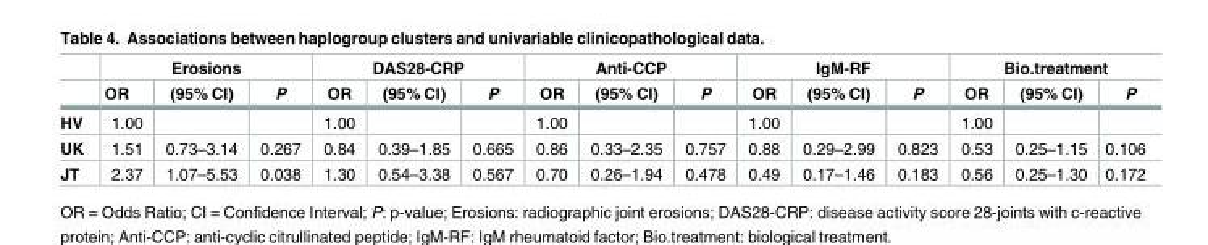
<table><thead><tr><td rowspan="2"></td><td colspan="3">Erosions</td><td colspan="3">DAS28-CRP</td><td colspan="3">Anti-CCP</td><td colspan="3">IgM-RF</td><td colspan="3">Bio.treatment</td></tr><tr><td>OR</td><td>(95% CI)</td><td>P</td><td>OR</td><td>(95% CI)</td><td>P</td><td>OR</td><td>(95% CI)</td><td>P</td><td>OR</td><td>(95% CI)</td><td>P</td><td>OR</td><td>(95% CI)</td><td>P</td></tr></thead><tbody><tr><td>HV</td><td>1.00</td><td></td><td></td><td>1.00</td><td></td><td></td><td>1.00</td><td></td><td></td><td>1.00</td><td></td><td></td><td>1.00</td><td></td><td></td></tr><tr><td>UK</td><td>1.51</td><td>0.73–3.14</td><td>0.267</td><td>0.84</td><td>0.39–1.85</td><td>0.665</td><td>0.86</td><td>0.33–2.35</td><td>0.757</td><td>0.88</td><td>0.29–2.99</td><td>0.823</td><td>0.53</td><td>0.25–1.15</td><td>0.106</td></tr><tr><td>JT</td><td>2.37</td><td>1.07–5.53</td><td>0.038</td><td>1.30</td><td>0.54–3.38</td><td>0.567</td><td>0.70</td><td>0.26–1.94</td><td>0.478</td><td>0.49</td><td>0.17–1.46</td><td>0.183</td><td>0.56</td><td>0.25–1.30</td><td>0.172</td></tr></tbody></table>